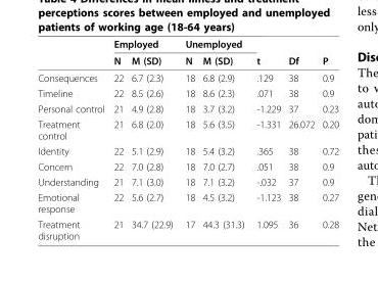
<table><thead><tr><td rowspan="2"></td><td colspan="2">Employed</td><td colspan="2">Unemployed</td><td rowspan="2">t</td><td rowspan="2">Df</td><td rowspan="2">P</td></tr><tr><td>N</td><td>M (SD)</td><td>N</td><td>M (SD)</td></tr></thead><tbody><tr><td>Consequences</td><td>22</td><td>6.7 (2.3)</td><td>18</td><td>6.8 (2.9)</td><td>.129</td><td>38</td><td>0.9</td></tr><tr><td>Timeline</td><td>22</td><td>8.5 (2.6)</td><td>18</td><td>8.6 (2.3)</td><td>.071</td><td>38</td><td>0.9</td></tr><tr><td>Personal control</td><td>21</td><td>4.9 (2.8)</td><td>18</td><td>3.7 (3.2)</td><td>-1.229</td><td>37</td><td>0.23</td></tr><tr><td>Treatment control</td><td>21</td><td>6.8 (2.0)</td><td>18</td><td>5.6 (3.5)</td><td>-1.331</td><td>26.072</td><td>0.20</td></tr><tr><td>Identity</td><td>22</td><td>5.1 (2.9)</td><td>18</td><td>5.4 (3.2)</td><td>.365</td><td>38</td><td>0.72</td></tr><tr><td>Concern</td><td>22</td><td>7.0 (2.8)</td><td>18</td><td>7.0 (2.7)</td><td>.051</td><td>38</td><td>0.9</td></tr><tr><td>Understanding</td><td>21</td><td>7.1 (3.0)</td><td>18</td><td>7.1 (3.2)</td><td>-.032</td><td>37</td><td>0.9</td></tr><tr><td>Emotional response</td><td>22</td><td>5.6 (2.7)</td><td>18</td><td>4.5 (3.2)</td><td>-1.123</td><td>38</td><td>0.27</td></tr><tr><td>Treatment disruption</td><td>21</td><td>34.7 (22.9)</td><td>17</td><td>44.3 (31.3)</td><td>1.095</td><td>36</td><td>0.28</td></tr></tbody></table>